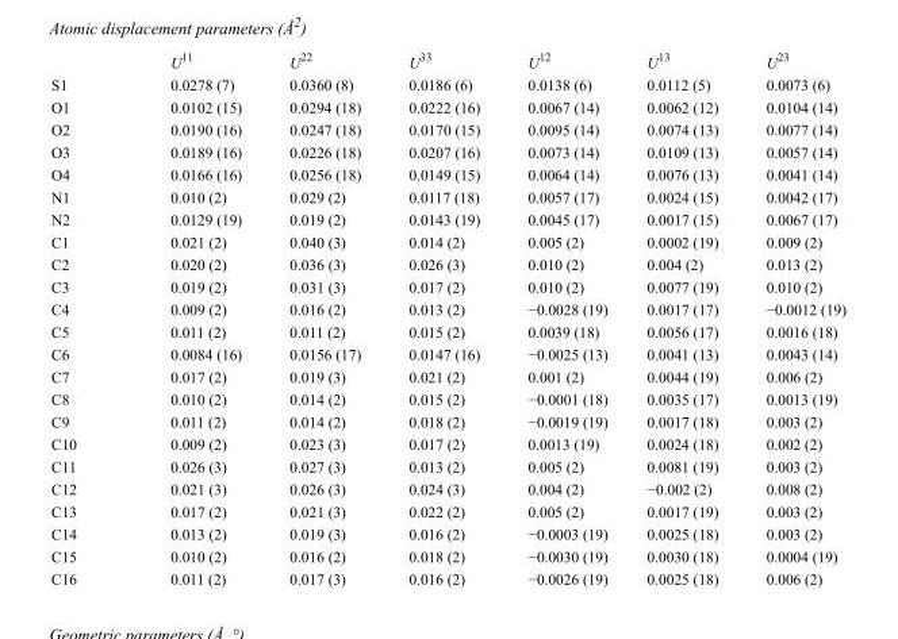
<table><thead><tr><td></td><td>U<sup>11</sup></td><td>U<sup>22</sup></td><td>U<sup>33</sup></td><td>U<sup>12</sup></td><td>U<sup>13</sup></td><td>U<sup>23</sup></td></tr></thead><tbody><tr><td>S1</td><td>0.0278 (7)</td><td>0.0360 (8)</td><td>0.0186 (6)</td><td>0.0138 (6)</td><td>0.0112 (5)</td><td>0.0073 (6)</td></tr><tr><td>O1</td><td>0.0102 (15)</td><td>0.0294 (18)</td><td>0.0222 (16)</td><td>0.0067 (14)</td><td>0.0062 (12)</td><td>0.0104 (14)</td></tr><tr><td>O2</td><td>0.0190 (16)</td><td>0.0247 (18)</td><td>0.0170 (15)</td><td>0.0095 (14)</td><td>0.0074 (13)</td><td>0.0077 (14)</td></tr><tr><td>O3</td><td>0.0189 (16)</td><td>0.0226 (18)</td><td>0.0207 (16)</td><td>0.0073 (14)</td><td>0.0109 (13)</td><td>0.0057 (14)</td></tr><tr><td>O4</td><td>0.0166 (16)</td><td>0.0256 (18)</td><td>0.0149 (15)</td><td>0.0064 (14)</td><td>0.0076 (13)</td><td>0.0041 (14)</td></tr><tr><td>N1</td><td>0.010 (2)</td><td>0.029 (2)</td><td>0.0117 (18)</td><td>0.0057 (17)</td><td>0.0024 (15)</td><td>0.0042 (17)</td></tr><tr><td>N2</td><td>0.0129 (19)</td><td>0.019 (2)</td><td>0.0143 (19)</td><td>0.0045 (17)</td><td>0.0017 (15)</td><td>0.0067 (17)</td></tr><tr><td>C1</td><td>0.021 (2)</td><td>0.040 (3)</td><td>0.014 (2)</td><td>0.005 (2)</td><td>0.0002 (19)</td><td>0.009 (2)</td></tr><tr><td>C2</td><td>0.020 (2)</td><td>0.036 (3)</td><td>0.026 (3)</td><td>0.010 (2)</td><td>0.004 (2)</td><td>0.013 (2)</td></tr><tr><td>C3</td><td>0.019 (2)</td><td>0.031 (3)</td><td>0.017 (2)</td><td>0.010 (2)</td><td>0.0077 (19)</td><td>0.010 (2)</td></tr><tr><td>C4</td><td>0.009 (2)</td><td>0.016 (2)</td><td>0.013 (2)</td><td>−0.0028 (19)</td><td>0.0017 (17)</td><td>−0.0012 (19)</td></tr><tr><td>C5</td><td>0.011 (2)</td><td>0.011 (2)</td><td>0.015 (2)</td><td>0.0039 (18)</td><td>0.0056 (17)</td><td>0.0016 (18)</td></tr><tr><td>C6</td><td>0.0084 (16)</td><td>0.0156 (17)</td><td>0.0147 (16)</td><td>−0.0025 (13)</td><td>0.0041 (13)</td><td>0.0043 (14)</td></tr><tr><td>C7</td><td>0.017 (2)</td><td>0.019 (3)</td><td>0.021 (2)</td><td>0.001 (2)</td><td>0.0044 (19)</td><td>0.006 (2)</td></tr><tr><td>C8</td><td>0.010 (2)</td><td>0.014 (2)</td><td>0.015 (2)</td><td>−0.0001 (18)</td><td>0.0035 (17)</td><td>0.0013 (19)</td></tr><tr><td>C9</td><td>0.011 (2)</td><td>0.014 (2)</td><td>0.018 (2)</td><td>−0.0019 (19)</td><td>0.0017 (18)</td><td>0.003 (2)</td></tr><tr><td>C10</td><td>0.009 (2)</td><td>0.023 (3)</td><td>0.017 (2)</td><td>0.0013 (19)</td><td>0.0024 (18)</td><td>0.002 (2)</td></tr><tr><td>C11</td><td>0.026 (3)</td><td>0.027 (3)</td><td>0.013 (2)</td><td>0.005 (2)</td><td>0.0081 (19)</td><td>0.003 (2)</td></tr><tr><td>C12</td><td>0.021 (3)</td><td>0.026 (3)</td><td>0.024 (3)</td><td>0.004 (2)</td><td>−0.002 (2)</td><td>0.008 (2)</td></tr><tr><td>C13</td><td>0.017 (2)</td><td>0.021 (3)</td><td>0.022 (2)</td><td>0.005 (2)</td><td>0.0017 (19)</td><td>0.003 (2)</td></tr><tr><td>C14</td><td>0.013 (2)</td><td>0.019 (3)</td><td>0.016 (2)</td><td>−0.0003 (19)</td><td>0.0025 (18)</td><td>0.003 (2)</td></tr><tr><td>C15</td><td>0.010 (2)</td><td>0.016 (2)</td><td>0.018 (2)</td><td>−0.0030 (19)</td><td>0.0030 (18)</td><td>0.0004 (19)</td></tr><tr><td>C16</td><td>0.011 (2)</td><td>0.017 (3)</td><td>0.016 (2)</td><td>−0.0026 (19)</td><td>0.0025 (18)</td><td>0.006 (2)</td></tr></tbody></table>